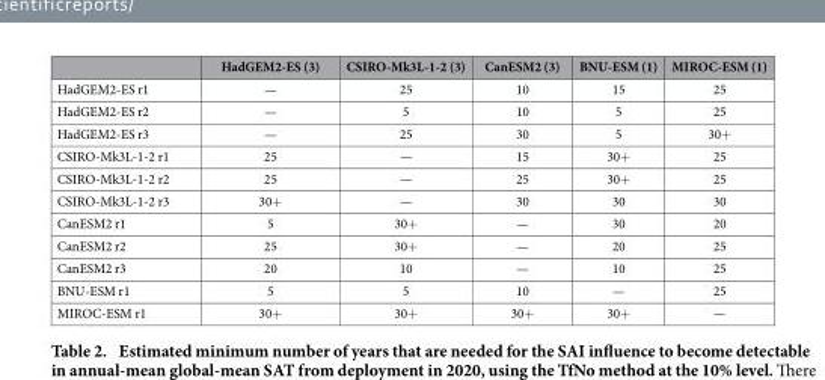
<table><thead><tr><td></td><td>HadGEM2-ES (3)</td><td>CSIRO-Mk3L-1-2 (3)</td><td>CanESM2 (3)</td><td>BNU-ESM (1)</td><td>MIROC-ESM (1)</td></tr></thead><tbody><tr><td>HadGEM2-ES r1</td><td>—</td><td>25</td><td>10</td><td>15</td><td>25</td></tr><tr><td>HadGEM2-ES r2</td><td>—</td><td>5</td><td>10</td><td>5</td><td>25</td></tr><tr><td>HadGEM2-ES r3</td><td>—</td><td>25</td><td>30</td><td>5</td><td>30+</td></tr><tr><td>CSIRO-Mk3L-1-2 r1</td><td>25</td><td>—</td><td>15</td><td>30+</td><td>25</td></tr><tr><td>CSIRO-Mk3L-1-2 r2</td><td>25</td><td>—</td><td>25</td><td>30+</td><td>25</td></tr><tr><td>CSIRO-Mk3L-1-2 r3</td><td>30+</td><td>—</td><td>30</td><td>30</td><td>30</td></tr><tr><td>CanESM2 r1</td><td>5</td><td>30+</td><td>—</td><td>30</td><td>20</td></tr><tr><td>CanESM2 r2</td><td>25</td><td>30+</td><td>—</td><td>20</td><td>25</td></tr><tr><td>CanESM2 r3</td><td>20</td><td>10</td><td>—</td><td>10</td><td>25</td></tr><tr><td>BNU-ESM r1</td><td>5</td><td>5</td><td>10</td><td>—</td><td>25</td></tr><tr><td>MIROC-ESM r1</td><td>30+</td><td>30+</td><td>30+</td><td>30+</td><td>—</td></tr></tbody></table>